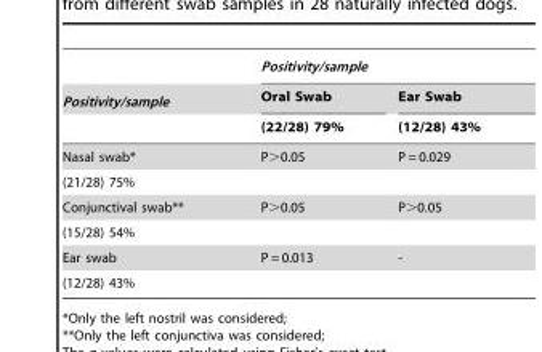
<table><thead><tr><td rowspan="3">Positivity/sample</td><td colspan="2">Positivity/sample</td></tr><tr><td rowspan="2">Oral Swab (22/28) 79%</td><td rowspan="2">Ear Swab (12/28) 43%</td></tr><tr></tr></thead><tbody><tr><td>Nasal swab*</td><td>P&gt;0.05</td><td>P = 0.029</td></tr><tr><td colspan="3">(21/28) 75%</td></tr><tr><td>Conjunctival swab**</td><td>P&gt;0.05</td><td>P&gt;0.05</td></tr><tr><td colspan="3">(15/28) 54%</td></tr><tr><td>Ear swab</td><td>P = 0.013</td><td>-</td></tr><tr><td>(12/28) 43%</td><td></td><td></td></tr></tbody></table>